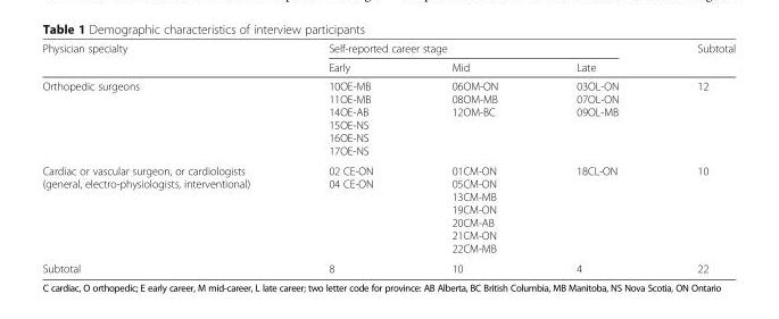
<table><thead><tr><td rowspan="2">Physician specialty</td><td colspan="3">Self-reported career stage</td><td rowspan="2">Subtotal</td></tr><tr><td>Early</td><td>Mid</td><td>Late</td></tr></thead><tbody><tr><td>Orthopedic surgeons</td><td>10OE-MB 11OE-MB 14OE-AB 15OE-NS 16OE-NS 17OE-NS</td><td>06OM-ON 08OM-MB 12OM-BC</td><td>03OL-ON 07OL-ON 09OL-MB</td><td>12</td></tr><tr><td>Cardiac or vascular surgeon, or cardiologists (general, electro-physiologists, interventional)</td><td>02 CE-ON 04 CE-ON</td><td>01CM-ON 05CM-ON 13CM-MB 19CM-ON 20CM-AB 21CM-ON 22CM-MB</td><td>18CL-ON</td><td>10</td></tr><tr><td>Subtotal</td><td>8</td><td>10</td><td>4</td><td>22</td></tr></tbody></table>